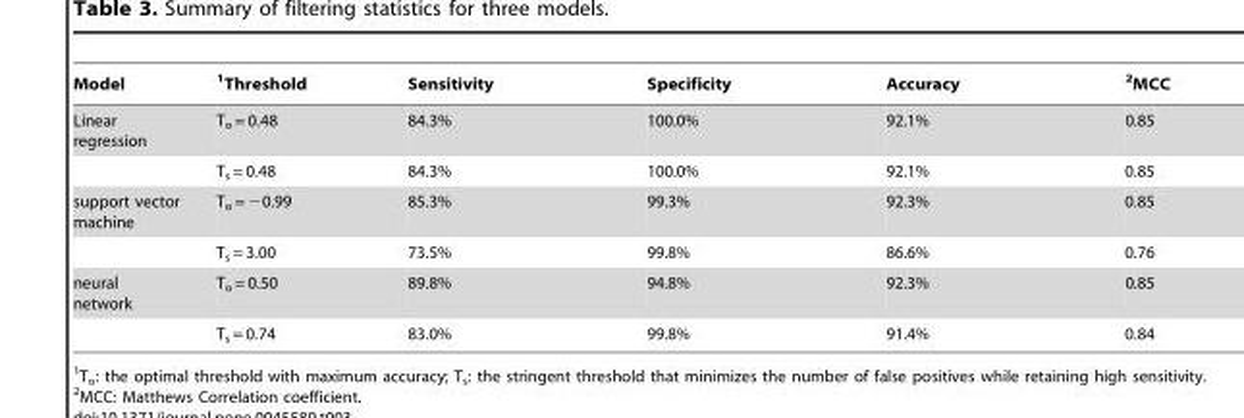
<table><thead><tr><td>Model</td><td>1Threshold</td><td>Sensitivity</td><td>Specificity</td><td>Accuracy</td><td>2MCC</td></tr></thead><tbody><tr><td rowspan="2">Linear regression</td><td>T<sub>o</sub> = 0.48</td><td>84.3%</td><td>100.0%</td><td>92.1%</td><td>0.85</td></tr><tr><td>T<sub>s</sub> = 0.48</td><td>84.3%</td><td>100.0%</td><td>92.1%</td><td>0.85</td></tr><tr><td rowspan="2">support vector machine</td><td>T<sub>o</sub> = −0.99</td><td>85.3%</td><td>99.3%</td><td>92.3%</td><td>0.85</td></tr><tr><td>T<sub>s</sub> = 3.00</td><td>73.5%</td><td>99.8%</td><td>86.6%</td><td>0.76</td></tr><tr><td rowspan="2">neural network</td><td>T<sub>o</sub> = 0.50</td><td>89.8%</td><td>94.8%</td><td>92.3%</td><td>0.85</td></tr><tr><td>T<sub>s</sub> = 0.74</td><td>83.0%</td><td>99.8%</td><td>91.4%</td><td>0.84</td></tr></tbody></table>